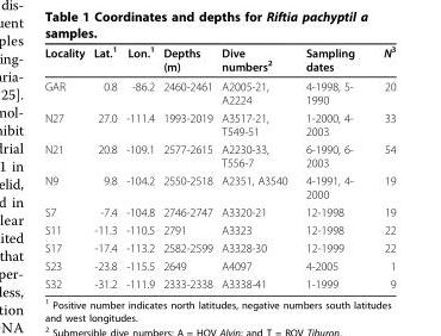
<table><thead><tr><td>Locality</td><td>Lat.<sup>1</sup></td><td>Lon.<sup>1</sup></td><td>Depths (m)</td><td>Dive numbers<sup>2</sup></td><td>Sampling dates</td><td>N<sup>3</sup></td></tr></thead><tbody><tr><td>GAR</td><td>0.8</td><td>-86.2</td><td>2460-2461</td><td>A2005-21, A2224</td><td>4-1998, 5- 1990</td><td>20</td></tr><tr><td>N27</td><td>27.0</td><td>-111.4</td><td>1993-2019</td><td>A3517-21, T549-51</td><td>1-2000, 4- 2003</td><td>33</td></tr><tr><td>N21</td><td>20.8</td><td>-109.1</td><td>2577-2615</td><td>A2230-33, T556-7</td><td>6-1990, 6- 2003</td><td>54</td></tr><tr><td>N9</td><td>9.8</td><td>-104.2</td><td>2550-2518</td><td>A2351, A3540</td><td>4-1991, 4- 2000</td><td>19</td></tr><tr><td>S7</td><td>-7.4</td><td>-104.8</td><td>2746-2747</td><td>A3320-21</td><td>12-1998</td><td>19</td></tr><tr><td>S11</td><td>-11.3</td><td>-110.5</td><td>2791</td><td>A3323</td><td>12-1998</td><td>22</td></tr><tr><td>S17</td><td>-17.4</td><td>-113.2</td><td>2582-2599</td><td>A3328-30</td><td>12-1999</td><td>22</td></tr><tr><td>S23</td><td>-23.8</td><td>-115.5</td><td>2649</td><td>A4097</td><td>4-2005</td><td>1</td></tr><tr><td>S32</td><td>-31.2</td><td>-111.9</td><td>2333-2338</td><td>A3338-41</td><td>1-1999</td><td>9</td></tr></tbody></table>